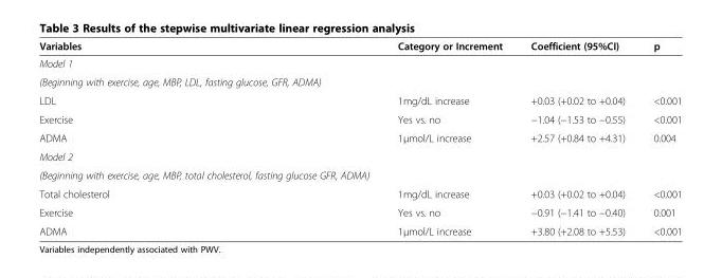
<table><thead><tr><td>Variables</td><td>Category or Increment</td><td>Coefficient (95%CI)</td><td>p</td></tr></thead><tbody><tr><td colspan="4">Model 1</td></tr><tr><td colspan="4">(Beginning with exercise, age, MBP, LDL, fasting glucose, GFR, ADMA)</td></tr><tr><td>LDL</td><td>1mg/dL increase</td><td>+0.03 (+0.02 to +0.04)</td><td>&lt;0.001</td></tr><tr><td>Exercise</td><td>Yes vs. no</td><td>−1.04 (−1.53 to −0.55)</td><td>&lt;0.001</td></tr><tr><td>ADMA</td><td>1μmol/L increase</td><td>+2.57 (+0.84 to +4.31)</td><td>0.004</td></tr><tr><td colspan="4">Model 2</td></tr><tr><td colspan="4">(Beginning with exercise, age, MBP, total cholesterol, fasting glucose GFR, ADMA)</td></tr><tr><td>Total cholesterol</td><td>1mg/dL increase</td><td>+0.03 (+0.02 to +0.04)</td><td>&lt;0.001</td></tr><tr><td>Exercise</td><td>Yes vs. no</td><td>−0.91 (−1.41 to −0.40)</td><td>0.001</td></tr><tr><td>ADMA</td><td>1μmol/L increase</td><td>+3.80 (+2.08 to +5.53)</td><td>&lt;0.001</td></tr></tbody></table>